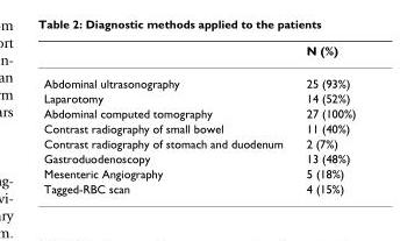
<table><thead><tr><td></td><td>N (%)</td></tr></thead><tbody><tr><td>Abdominal ultrasonography</td><td>25 (93%)</td></tr><tr><td>Laparotomy</td><td>14 (52%)</td></tr><tr><td>Abdominal computed tomography</td><td>27 (100%)</td></tr><tr><td>Contrast radiography of small bowel</td><td>11 (40%)</td></tr><tr><td>Contrast radiography of stomach and duodenum</td><td>2 (7%)</td></tr><tr><td>Gastroduodenoscopy</td><td>13 (48%)</td></tr><tr><td>Mesenteric Angiography</td><td>5 (18%)</td></tr><tr><td>Tagged-RBC scan</td><td>4 (15%)</td></tr></tbody></table>